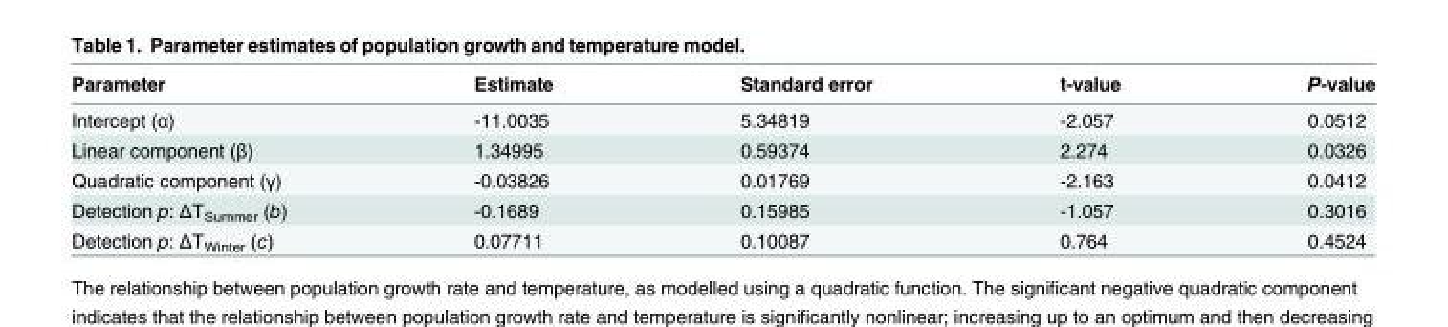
<table><thead><tr><td>Parameter</td><td>Estimate</td><td>Standard error</td><td>t-value</td><td>P-value</td></tr></thead><tbody><tr><td>Intercept (α)</td><td>-11.0035</td><td>5.34819</td><td>-2.057</td><td>0.0512</td></tr><tr><td>Linear component (β)</td><td>1.34995</td><td>0.59374</td><td>2.274</td><td>0.0326</td></tr><tr><td>Quadratic component (γ)</td><td>-0.03826</td><td>0.01769</td><td>-2.163</td><td>0.0412</td></tr><tr><td>Detection p: ΔT<sub>Summer</sub> (b)</td><td>-0.1689</td><td>0.15985</td><td>-1.057</td><td>0.3016</td></tr><tr><td>Detection p: ΔT<sub>Winter</sub> (c)</td><td>0.07711</td><td>0.10087</td><td>0.764</td><td>0.4524</td></tr></tbody></table>